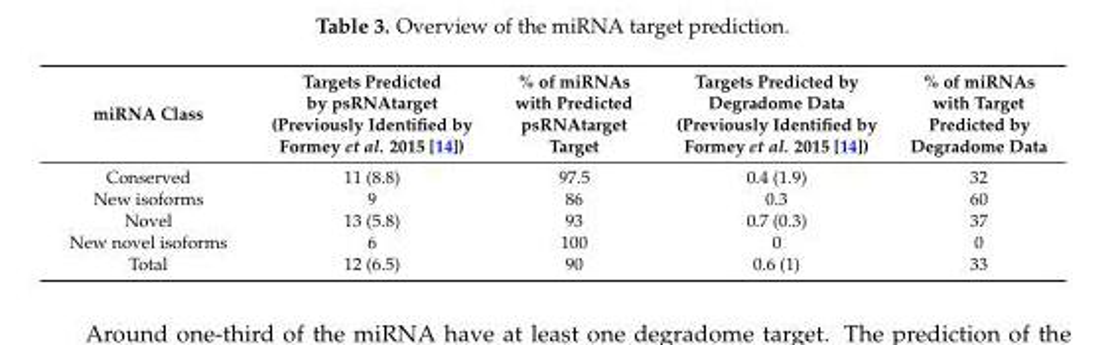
<table><thead><tr><td>miRNA Class</td><td>Targets Predicted by psRNAtarget (Previously Identified by Formey et al. 2015 [14])</td><td>% of miRNAs with Predicted psRNAtarget Target</td><td>Targets Predicted by Degradome Data (Previously Identified by Formey et al. 2015 [14])</td><td>% of miRNAs with Target Predicted by Degradome Data</td></tr></thead><tbody><tr><td>Conserved</td><td>11 (8.8)</td><td>97.5</td><td>0.4 (1.9)</td><td>32</td></tr><tr><td>New isoforms</td><td>9</td><td>86</td><td>0.3</td><td>60</td></tr><tr><td>Novel</td><td>13 (5.8)</td><td>93</td><td>0.7 (0.3)</td><td>37</td></tr><tr><td>New novel isoforms</td><td>6</td><td>100</td><td>0</td><td>0</td></tr><tr><td>Total</td><td>12 (6.5)</td><td>90</td><td>0.6 (1)</td><td>33</td></tr></tbody></table>